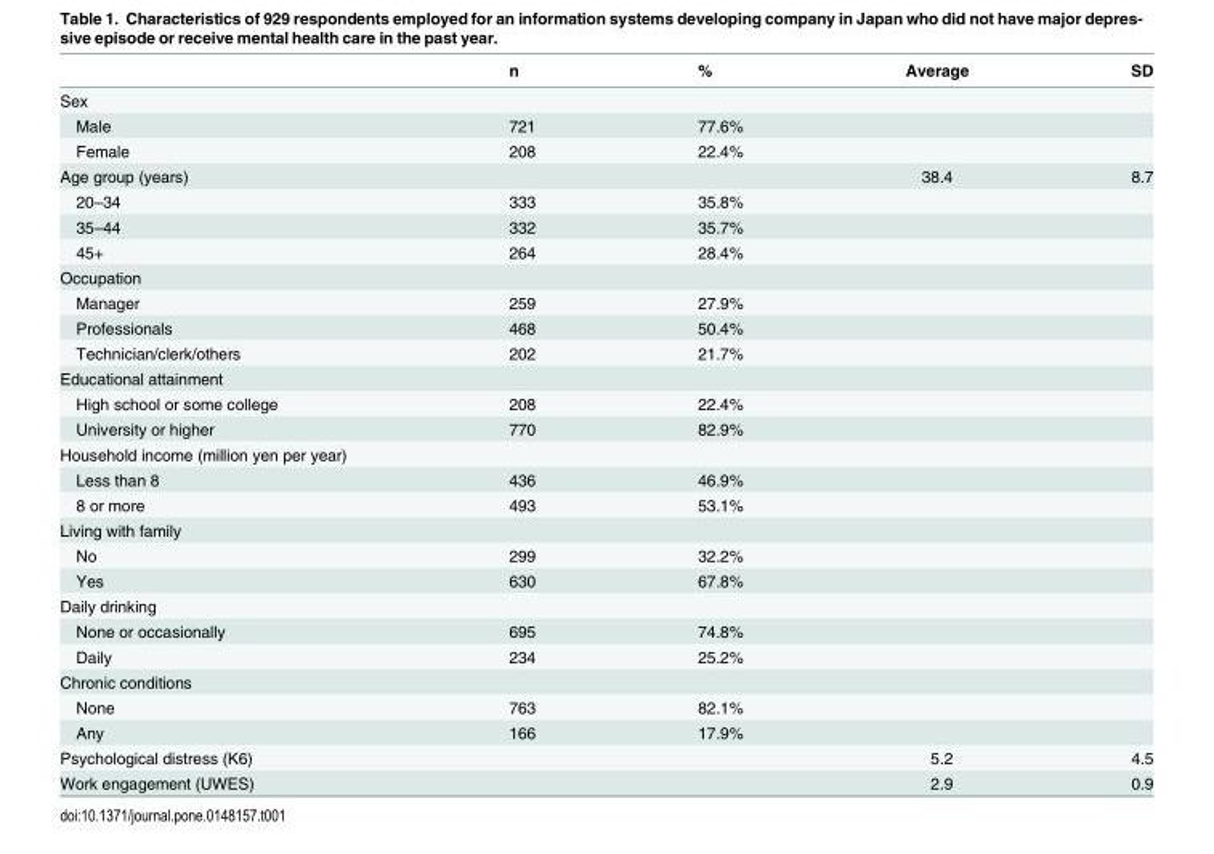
<table><thead><tr><td></td><td>n</td><td>%</td><td>Average</td><td>SD</td></tr></thead><tbody><tr><td colspan="5">Sex</td></tr><tr><td>Male</td><td>721</td><td>77.6%</td><td></td><td></td></tr><tr><td>Female</td><td>208</td><td>22.4%</td><td></td><td></td></tr><tr><td>Age group (years)</td><td></td><td></td><td>38.4</td><td>8.7</td></tr><tr><td>20–34</td><td>333</td><td>35.8%</td><td></td><td></td></tr><tr><td>35–44</td><td>332</td><td>35.7%</td><td></td><td></td></tr><tr><td>45+</td><td>264</td><td>28.4%</td><td></td><td></td></tr><tr><td colspan="5">Occupation</td></tr><tr><td>Manager</td><td>259</td><td>27.9%</td><td></td><td></td></tr><tr><td>Professionals</td><td>468</td><td>50.4%</td><td></td><td></td></tr><tr><td>Technician/clerk/others</td><td>202</td><td>21.7%</td><td></td><td></td></tr><tr><td colspan="5">Educational attainment</td></tr><tr><td>High school or some college</td><td>208</td><td>22.4%</td><td></td><td></td></tr><tr><td>University or higher</td><td>770</td><td>82.9%</td><td></td><td></td></tr><tr><td colspan="5">Household income (million yen per year)</td></tr><tr><td>Less than 8</td><td>436</td><td>46.9%</td><td></td><td></td></tr><tr><td>8 or more</td><td>493</td><td>53.1%</td><td></td><td></td></tr><tr><td colspan="5">Living with family</td></tr><tr><td>No</td><td>299</td><td>32.2%</td><td></td><td></td></tr><tr><td>Yes</td><td>630</td><td>67.8%</td><td></td><td></td></tr><tr><td colspan="5">Daily drinking</td></tr><tr><td>None or occasionally</td><td>695</td><td>74.8%</td><td></td><td></td></tr><tr><td>Daily</td><td>234</td><td>25.2%</td><td></td><td></td></tr><tr><td colspan="5">Chronic conditions</td></tr><tr><td>None</td><td>763</td><td>82.1%</td><td></td><td></td></tr><tr><td>Any</td><td>166</td><td>17.9%</td><td></td><td></td></tr><tr><td>Psychological distress (K6)</td><td></td><td></td><td>5.2</td><td>4.5</td></tr><tr><td>Work engagement (UWES)</td><td></td><td></td><td>2.9</td><td>0.9</td></tr></tbody></table>